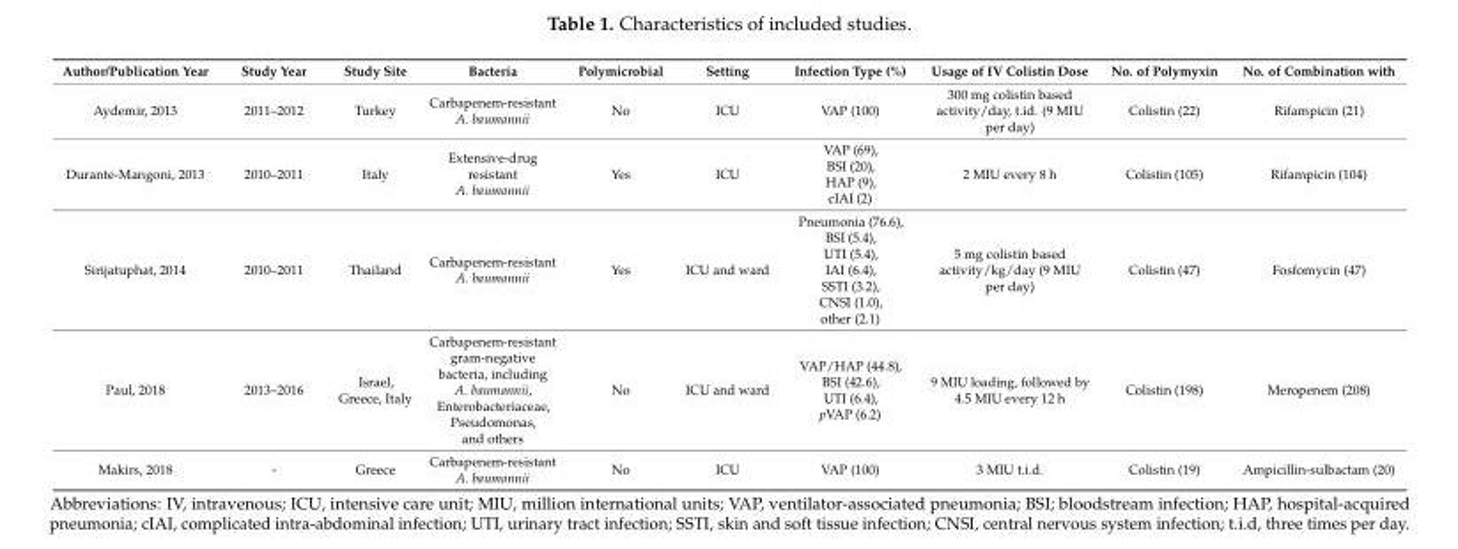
<table><thead><tr><td>Author/Publication Year</td><td>Study Year</td><td>Study Site</td><td>Bacteria</td><td>Polymicrobial</td><td>Setting</td><td>Infection Type (%)</td><td>Usage of IV Colistin Dose</td><td>No. of Polymyxin</td><td>No. of Combination with</td></tr></thead><tbody><tr><td>Aydemir, 2013</td><td>2011–2012</td><td>Turkey</td><td>Carbapenem-resistant A. baumannii</td><td>No</td><td>ICU</td><td>VAP (100)</td><td>300 mg colistin based activity/day, t.id. (9 MIU per day)</td><td>Colistin (22)</td><td>Rifampicin (21)</td></tr><tr><td>Durante-Mangoni, 2013</td><td>2010–2011</td><td>Italy</td><td>Extensive-drug resistant A. baumannii</td><td>Yes</td><td>ICU</td><td>VAP (69), BSI (20), HAP (9), cIAI (2)</td><td>2 MIU every 8 h</td><td>Colistin (105)</td><td>Rifampicin (104)</td></tr><tr><td>Sirijatuphat, 2014</td><td>2010–2011</td><td>Thailand</td><td>Carbapenem-resistant A. baumannii</td><td>Yes</td><td>ICU and ward</td><td>Pneumonia (76.6), BSI (5.4), UTI (5.4), IAI (6.4), SSTI (3.2), CNSI (1.0), other (2.1)</td><td>5 mg colistin based activity/kg/day (9 MIU per day)</td><td>Colistin (47)</td><td>Fosfomycin (47)</td></tr><tr><td>Paul, 2018</td><td>2013–2016</td><td>Israel, Greece, Italy</td><td>Carbapenem-resistant gram-negative bacteria, including A. baumannii, Enterobacteriaceae, Pseudomonas, and others</td><td>No</td><td>ICU and ward</td><td>VAP/HAP (44.8), BSI (42.6), UTI (6.4), pVAP (6.2)</td><td>9 MIU loading, followed by 4.5 MIU every 12 h</td><td>Colistin (198)</td><td>Meropenem (208)</td></tr><tr><td>Makirs, 2018</td><td>-</td><td>Greece</td><td>Carbapenem-resistant A. baumannii</td><td>No</td><td>ICU</td><td>VAP (100)</td><td>3 MIU t.i.d.</td><td>Colistin (19)</td><td>Ampicillin-sulbactam (20)</td></tr></tbody></table>